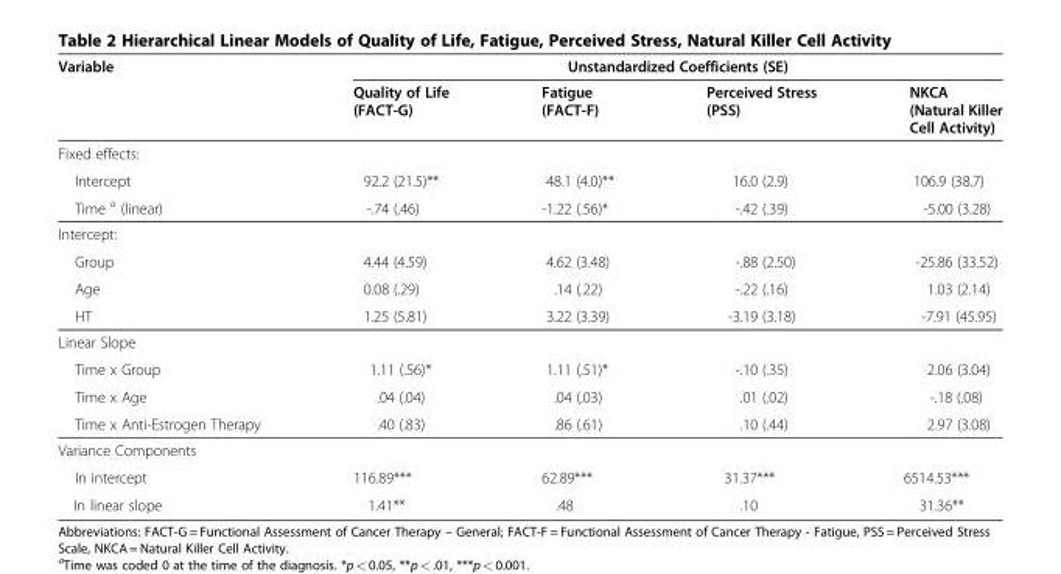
<table><thead><tr><td rowspan="2">Variable</td><td colspan="4">Unstandardized Coefficients (SE)</td></tr><tr><td>Quality of Life (FACT-G)</td><td>Fatigue (FACT-F)</td><td>Perceived Stress (PSS)</td><td>NKCA (Natural Killer Cell Activity)</td></tr></thead><tbody><tr><td colspan="5">Fixed effects:</td></tr><tr><td>Intercept</td><td>92.2 (21.5)**</td><td>48.1 (4.0)**</td><td>16.0 (2.9)</td><td>106.9 (38.7)</td></tr><tr><td>Time <sup>a</sup> (linear)</td><td>-.74 (.46)</td><td>-1.22 (.56)*</td><td>-.42 (.39)</td><td>-5.00 (3.28)</td></tr><tr><td colspan="5">Intercept:</td></tr><tr><td>Group</td><td>4.44 (4.59)</td><td>4.62 (3.48)</td><td>-.88 (2.50)</td><td>-25.86 (33.52)</td></tr><tr><td>Age</td><td>0.08 (.29)</td><td>.14 (.22)</td><td>-.22 (.16)</td><td>1.03 (2.14)</td></tr><tr><td>HT</td><td>1.25 (5.81)</td><td>3.22 (3.39)</td><td>-3.19 (3.18)</td><td>-7.91 (45.95)</td></tr><tr><td colspan="5">Linear Slope</td></tr><tr><td>Time x Group</td><td>1.11 (.56)*</td><td>1.11 (.51)*</td><td>-.10 (.35)</td><td>2.06 (3.04)</td></tr><tr><td>Time x Age</td><td>.04 (.04)</td><td>.04 (.03)</td><td>.01 (.02)</td><td>-.18 (.08)</td></tr><tr><td>Time x Anti-Estrogen Therapy</td><td>.40 (.83)</td><td>.86 (.61)</td><td>.10 (.44)</td><td>2.97 (3.08)</td></tr><tr><td colspan="5">Variance Components</td></tr><tr><td>In intercept</td><td>116.89***</td><td>62.89***</td><td>31.37***</td><td>6514.53***</td></tr><tr><td>In linear slope</td><td>1.41**</td><td>.48</td><td>.10</td><td>31.36**</td></tr></tbody></table>